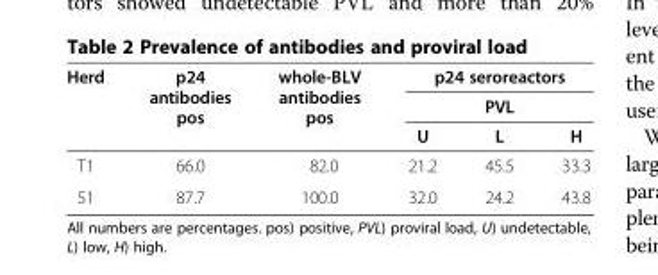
<table><thead><tr><td rowspan="3">Herd</td><td rowspan="3">p24 antibodies pos</td><td rowspan="3">whole-BLV antibodies pos</td><td rowspan="2" colspan="3">p24 seroreactors PVL</td></tr><tr></tr><tr><td>U</td><td>L</td><td>H</td></tr></thead><tbody><tr><td>T1</td><td>66.0</td><td>82.0</td><td>21.2</td><td>45.5</td><td>33.3</td></tr><tr><td>51</td><td>87.7</td><td>100.0</td><td>32.0</td><td>24.2</td><td>43.8</td></tr></tbody></table>